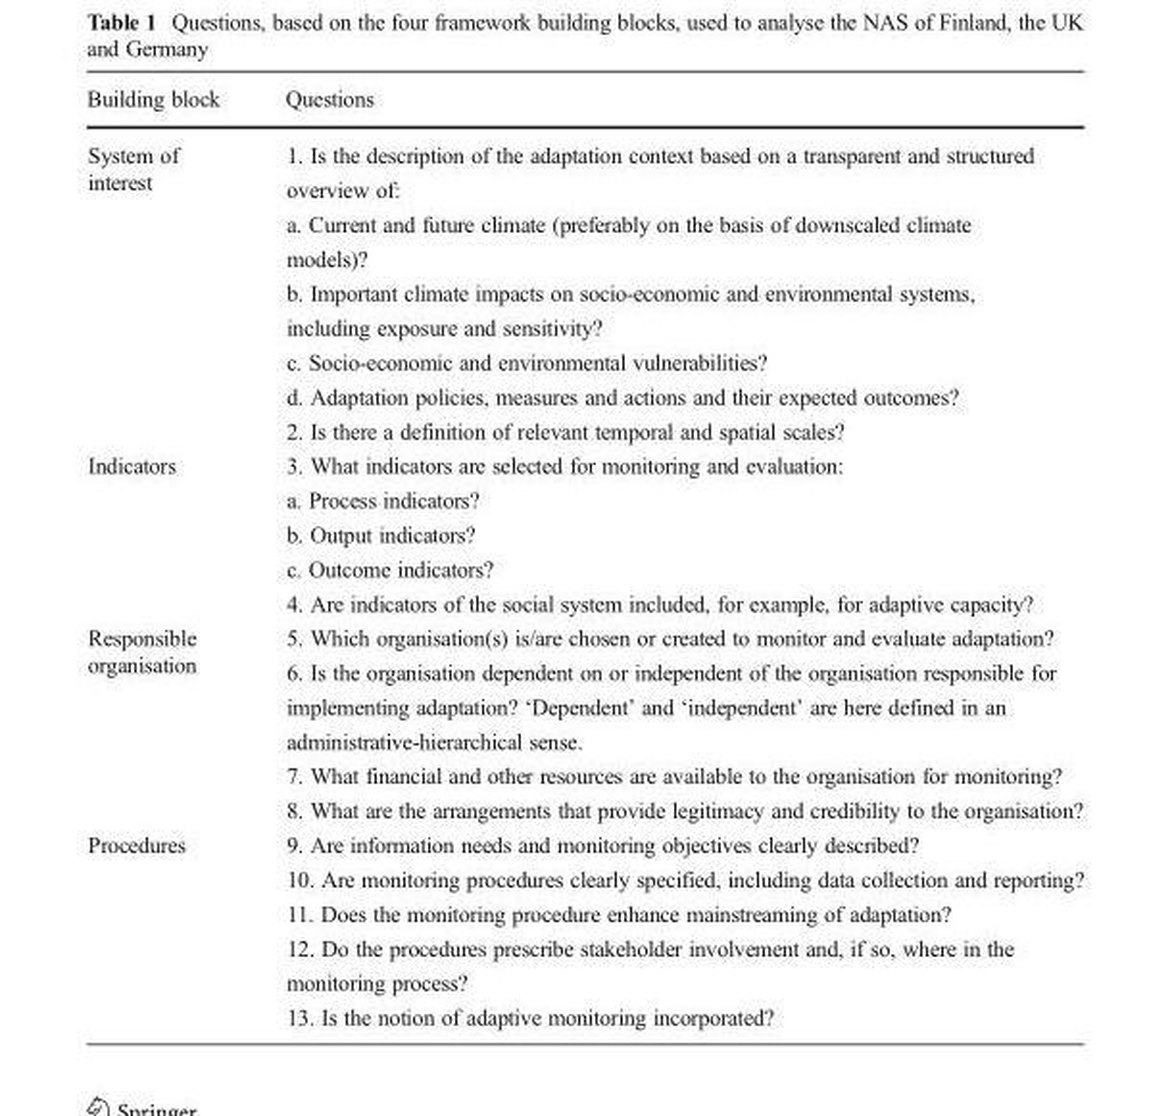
<table><thead><tr><td>Building block</td><td>Questions</td></tr></thead><tbody><tr><td rowspan="9">System of interest</td><td>1. Is the description of the adaptation context based on a transparent and structured</td></tr><tr><td>overview of:</td></tr><tr><td>a. Current and future climate (preferably on the basis of downscaled climate</td></tr><tr><td>models)?</td></tr><tr><td>b. Important climate impacts on socio-economic and environmental systems,</td></tr><tr><td>including exposure and sensitivity?</td></tr><tr><td>c. Socio-economic and environmental vulnerabilities?</td></tr><tr><td>d. Adaptation policies, measures and actions and their expected outcomes?</td></tr><tr><td>2. Is there a definition of relevant temporal and spatial scales?</td></tr><tr><td rowspan="5">Indicators</td><td>3. What indicators are selected for monitoring and evaluation:</td></tr><tr><td>a. Process indicators?</td></tr><tr><td>b. Output indicators?</td></tr><tr><td>c. Outcome indicators?</td></tr><tr><td>4. Are indicators of the social system included, for example, for adaptive capacity?</td></tr><tr><td rowspan="6">Responsible organisation</td><td>5. Which organisation(s) is/are chosen or created to monitor and evaluate adaptation?</td></tr><tr><td>6. Is the organisation dependent on or independent of the organisation responsible for</td></tr><tr><td>implementing adaptation? ‘Dependent’ and ‘independent’ are here defined in an</td></tr><tr><td>administrative-hierarchical sense.</td></tr><tr><td>7. What financial and other resources are available to the organisation for monitoring?</td></tr><tr><td>8. What are the arrangements that provide legitimacy and credibility to the organisation?</td></tr><tr><td rowspan="6">Procedures</td><td>9. Are information needs and monitoring objectives clearly described?</td></tr><tr><td>10. Are monitoring procedures clearly specified, including data collection and reporting?</td></tr><tr><td>11. Does the monitoring procedure enhance mainstreaming of adaptation?</td></tr><tr><td>12. Do the procedures prescribe stakeholder involvement and, if so, where in the</td></tr><tr><td>monitoring process?</td></tr><tr><td>13. Is the notion of adaptive monitoring incorporated?</td></tr></tbody></table>